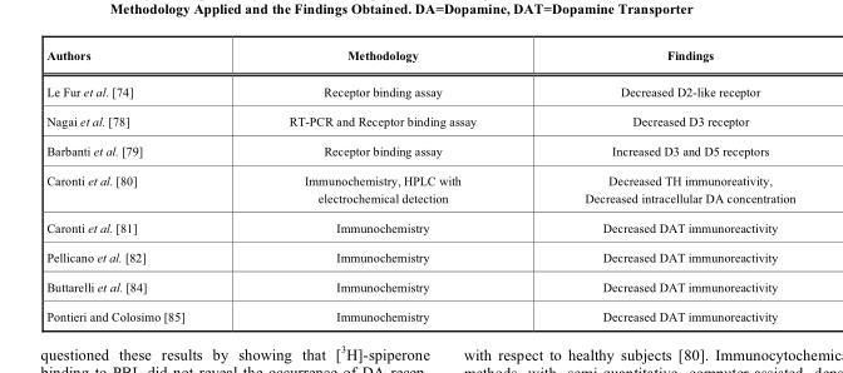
<table><thead><tr><td>Authors</td><td>Methodology</td><td>Findings</td></tr></thead><tbody><tr><td>Le Fur et al. [74]</td><td>Receptor binding assay</td><td>Decreased D2-like receptor</td></tr><tr><td>Nagai et al. [78]</td><td>RT-PCR and Receptor binding assay</td><td>Decreased D3 receptor</td></tr><tr><td>Barbanti et al. [79]</td><td>Receptor binding assay</td><td>Increased D3 and D5 receptors</td></tr><tr><td>Caronti et al. [80]</td><td>Immunochemistry, HPLC with electrochemical detection</td><td>Decreased TH immunoreativity, Decreased intracellular DA concentration</td></tr><tr><td>Caronti et al. [81]</td><td>Immunochemistry</td><td>Decreased DAT immunoreactivity</td></tr><tr><td>Pellicano et al. [82]</td><td>Immunochemistry</td><td>Decreased DAT immunoreactivity</td></tr><tr><td>Buttarelli et al. [84]</td><td>Immunochemistry</td><td>Decreased DAT immunoreactivity</td></tr><tr><td>Pontieri and Colosimo [85]</td><td>Immunochemistry</td><td>Decreased DAT immunoreactivity</td></tr></tbody></table>